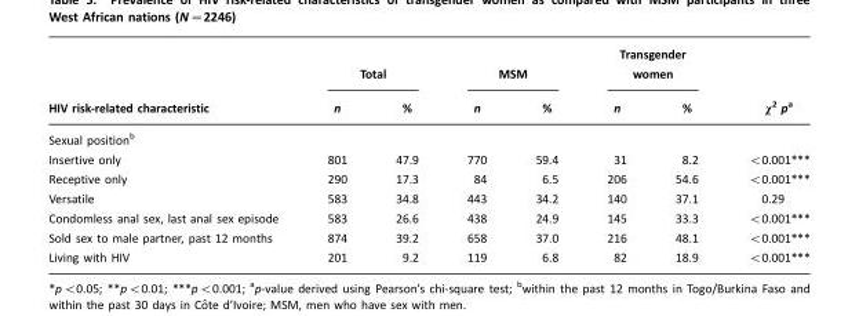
<table><thead><tr><td rowspan="2">HIV risk-related characteristic</td><td colspan="2">Total</td><td colspan="2">MSM</td><td colspan="2">Transgender women</td><td rowspan="2">χ<sup>2</sup> p<sup>a</sup></td></tr><tr><td>n</td><td>%</td><td>n</td><td>%</td><td>n</td><td>%</td></tr></thead><tbody><tr><td colspan="8">Sexual position<sup>b</sup></td></tr><tr><td>Insertive only</td><td>801</td><td>47.9</td><td>770</td><td>59.4</td><td>31</td><td>8.2</td><td>&lt;0.001***</td></tr><tr><td>Receptive only</td><td>290</td><td>17.3</td><td>84</td><td>6.5</td><td>206</td><td>54.6</td><td>&lt;0.001***</td></tr><tr><td>Versatile</td><td>583</td><td>34.8</td><td>443</td><td>34.2</td><td>140</td><td>37.1</td><td>0.29</td></tr><tr><td>Condomless anal sex, last anal sex episode</td><td>583</td><td>26.6</td><td>438</td><td>24.9</td><td>145</td><td>33.3</td><td>&lt;0.001***</td></tr><tr><td>Sold sex to male partner, past 12 months</td><td>874</td><td>39.2</td><td>658</td><td>37.0</td><td>216</td><td>48.1</td><td>&lt;0.001***</td></tr><tr><td>Living with HIV</td><td>201</td><td>9.2</td><td>119</td><td>6.8</td><td>82</td><td>18.9</td><td>&lt;0.001***</td></tr></tbody></table>